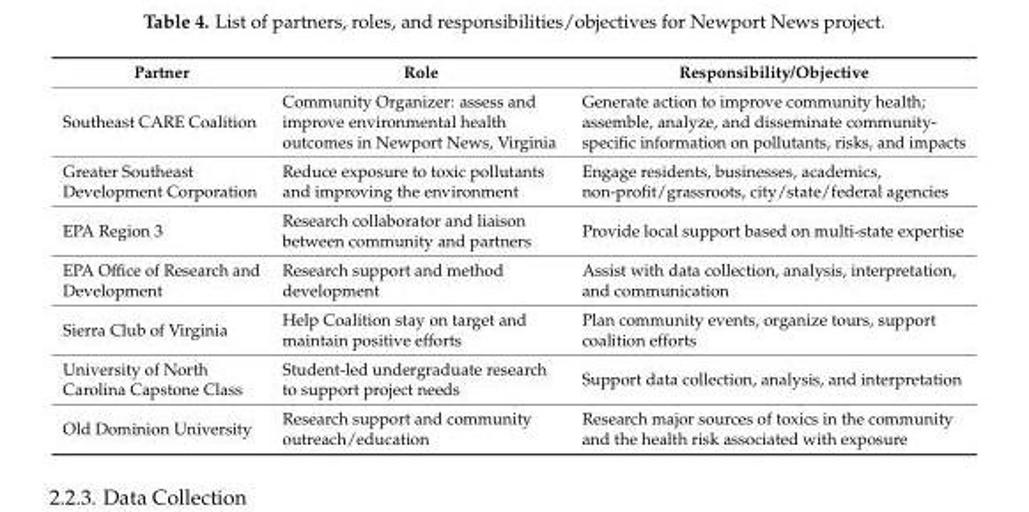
<table><thead><tr><td>Partner</td><td>Role</td><td>Responsibility/Objective</td></tr></thead><tbody><tr><td>Southeast CARE Coalition</td><td>Community Organizer: assess and improve environmental health outcomes in Newport News, Virginia</td><td>Generate action to improve community health; assemble, analyze, and disseminate community- specific information on pollutants, risks, and impacts</td></tr><tr><td>Greater Southeast Development Corporation</td><td>Reduce exposure to toxic pollutants and improving the environment</td><td>Engage residents, businesses, academics, non-profit/grassroots, city/state/federal agencies</td></tr><tr><td>EPA Region 3</td><td>Research collaborator and liaison between community and partners</td><td>Provide local support based on multi-state expertise</td></tr><tr><td>EPA Office of Research and Development</td><td>Research support and method development</td><td>Assist with data collection, analysis, interpretation, and communication</td></tr><tr><td>Sierra Club of Virginia</td><td>Help Coalition stay on target and maintain positive efforts</td><td>Plan community events, organize tours, support coalition efforts</td></tr><tr><td>University of North Carolina Capstone Class</td><td>Student-led undergraduate research to support project needs</td><td>Support data collection, analysis, and interpretation</td></tr><tr><td>Old Dominion University</td><td>Research support and community outreach/education</td><td>Research major sources of toxics in the community and the health risk associated with exposure</td></tr></tbody></table>